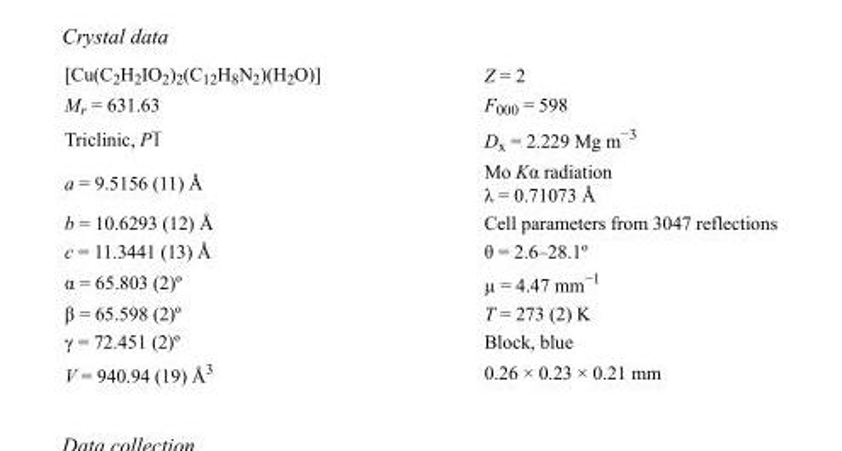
<table><tbody><tr><td>[Cu(C<sub>2</sub>H<sub>2</sub>IO<sub>2</sub>)<sub>2</sub>(C<sub>12</sub>H<sub>8</sub>N<sub>2</sub>)(H<sub>2</sub>O)]</td><td>Z = 2</td></tr><tr><td>M<sub>r</sub> = 631.63</td><td>F000 = 598</td></tr><tr><td>Triclinic, P1</td><td>D<sub>x</sub> = 2.229 Mg m<sup>−3</sup></td></tr><tr><td>a = 9.5156 (11) Å</td><td>Mo Kα radiation λ = 0.71073 Å</td></tr><tr><td>b = 10.6293 (12) Å</td><td>Cell parameters from 3047 reflections</td></tr><tr><td>c = 11.3441 (13) Å</td><td>θ = 2.6–28.1º</td></tr><tr><td>α = 65.803 (2)º</td><td>µ = 4.47 mm<sup>−1</sup></td></tr><tr><td>β = 65.598 (2)º</td><td>T = 273 (2) K</td></tr><tr><td>γ = 72.451 (2)º</td><td>Block, blue</td></tr><tr><td>V = 940.94 (19) Å<sup>3</sup></td><td>0.26 × 0.23 × 0.21 mm</td></tr></tbody></table>